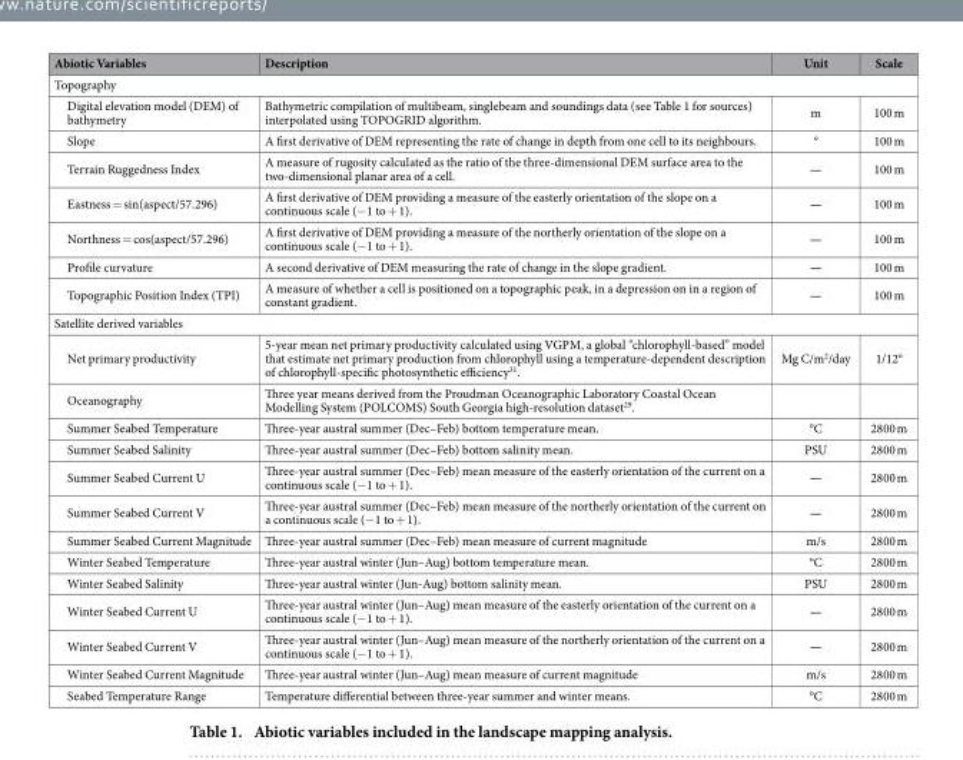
<table><thead><tr><td>Abiotic Variables</td><td>Description</td><td>Unit</td><td>Scale</td></tr></thead><tbody><tr><td colspan="4">Topography</td></tr><tr><td>Digital elevation model (DEM) of bathymetry</td><td>Bathymetric compilation of multibeam, singlebeam and soundings data (see Table 1 for sources) interpolated using TOPOGRID algorithm.</td><td>m</td><td>100 m</td></tr><tr><td>Slope</td><td>A first derivative of DEM representing the rate of change in depth from one cell to its neighbours.</td><td>°</td><td>100 m</td></tr><tr><td>Terrain Ruggedness Index</td><td>A measure of rugosity calculated as the ratio of the three-dimensional DEM surface area to the two-dimensional planar area of a cell.</td><td>—</td><td>100 m</td></tr><tr><td>Eastness = sin(aspect/57.296)</td><td>A first derivative of DEM providing a measure of the easterly orientation of the slope on a continuous scale (− 1 to + 1).</td><td>—</td><td>100 m</td></tr><tr><td>Northness = cos(aspect/57.296)</td><td>A first derivative of DEM providing a measure of the northerly orientation of the slope on a continuous scale (− 1 to + 1).</td><td>—</td><td>100 m</td></tr><tr><td>Profile curvature</td><td>A second derivative of DEM measuring the rate of change in the slope gradient.</td><td>—</td><td>100 m</td></tr><tr><td>Topographic Position Index (TPI)</td><td>A measure of whether a cell is positioned on a topographic peak, in a depression on in a region of constant gradient.</td><td>—</td><td>100 m</td></tr><tr><td colspan="4">Satellite derived variables</td></tr><tr><td>Net primary productivity</td><td>5-year mean net primary productivity calculated using VGPM, a global “chlorophyll-based” model that estimate net primary production from chlorophyll using a temperature-dependent description of chlorophyll-specific photosynthetic efficiency<sup>31</sup>.</td><td>Mg C/m<sup>2</sup>/day</td><td>1/12°</td></tr><tr><td>Oceanography</td><td>Three year means derived from the Proudman Oceanographic Laboratory Coastal Ocean Modelling System (POLCOMS) South Georgia high-resolution dataset<sup>29</sup>.</td><td></td><td></td></tr><tr><td>Summer Seabed Temperature</td><td>Three-year austral summer (Dec–Feb) bottom temperature mean.</td><td>°C</td><td>2800 m</td></tr><tr><td>Summer Seabed Salinity</td><td>Three-year austral summer (Dec–Feb) bottom salinity mean.</td><td>PSU</td><td>2800 m</td></tr><tr><td>Summer Seabed Current U</td><td>Three-year austral summer (Dec–Feb) mean measure of the easterly orientation of the current on a continuous scale (− 1 to + 1).</td><td>—</td><td>2800 m</td></tr><tr><td>Summer Seabed Current V</td><td>Three-year austral summer (Dec–Feb) mean measure of the northerly orientation of the current on a continuous scale (− 1 to + 1).</td><td>—</td><td>2800 m</td></tr><tr><td>Summer Seabed Current Magnitude</td><td>Three-year austral summer (Dec–Feb) mean measure of current magnitude</td><td>m/s</td><td>2800 m</td></tr><tr><td>Winter Seabed Temperature</td><td>Three-year austral winter (Jun–Aug) bottom temperature mean.</td><td>°C</td><td>2800 m</td></tr><tr><td>Winter Seabed Salinity</td><td>Three-year austral winter (Jun-Aug) bottom salinity mean.</td><td>PSU</td><td>2800 m</td></tr><tr><td>Winter Seabed Current U</td><td>Three-year austral winter (Jun–Aug) mean measure of the easterly orientation of the current on a continuous scale (− 1 to + 1).</td><td>—</td><td>2800 m</td></tr><tr><td>Winter Seabed Current V</td><td>Three-year austral winter (Jun–Aug) mean measure of the northerly orientation of the current on a continuous scale (− 1 to + 1).</td><td>—</td><td>2800 m</td></tr><tr><td>Winter Seabed Current Magnitude</td><td>Three-year austral winter (Jun–Aug) mean measure of current magnitude</td><td>m/s</td><td>2800 m</td></tr><tr><td>Seabed Temperature Range</td><td>Temperature differential between three-year summer and winter means.</td><td>°C</td><td>2800 m</td></tr></tbody></table>